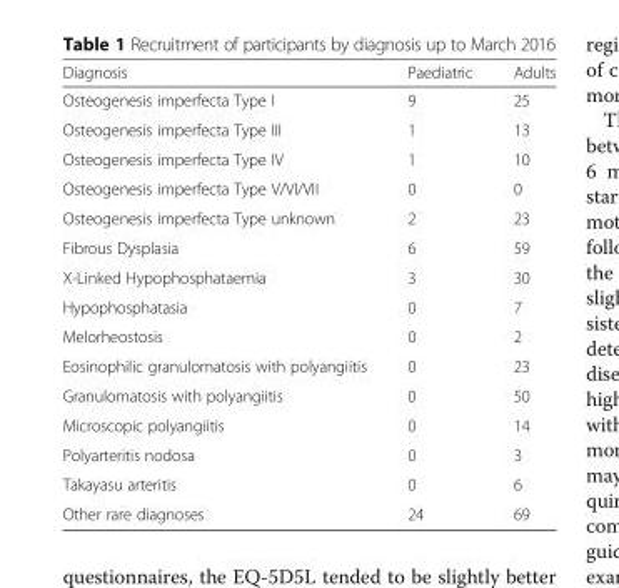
<table><thead><tr><td>Diagnosis</td><td>Paediatric</td><td>Adults</td></tr></thead><tbody><tr><td>Osteogenesis imperfecta Type I</td><td>9</td><td>25</td></tr><tr><td>Osteogenesis imperfecta Type III</td><td>1</td><td>13</td></tr><tr><td>Osteogenesis imperfecta Type IV</td><td>1</td><td>10</td></tr><tr><td>Osteogenesis imperfecta Type V/VI/VII</td><td>0</td><td>0</td></tr><tr><td>Osteogenesis imperfecta Type unknown</td><td>2</td><td>23</td></tr><tr><td>Fibrous Dysplasia</td><td>6</td><td>59</td></tr><tr><td>X-Linked Hypophosphataemia</td><td>3</td><td>30</td></tr><tr><td>Hypophosphatasia</td><td>0</td><td>7</td></tr><tr><td>Melorheostosis</td><td>0</td><td>2</td></tr><tr><td>Eosinophilic granulomatosis with polyangiitis</td><td>0</td><td>23</td></tr><tr><td>Granulomatosis with polyangiitis</td><td>0</td><td>50</td></tr><tr><td>Microscopic polyangiitis</td><td>0</td><td>14</td></tr><tr><td>Polyarteritis nodosa</td><td>0</td><td>3</td></tr><tr><td>Takayasu arteritis</td><td>0</td><td>6</td></tr><tr><td>Other rare diagnoses</td><td>24</td><td>69</td></tr></tbody></table>